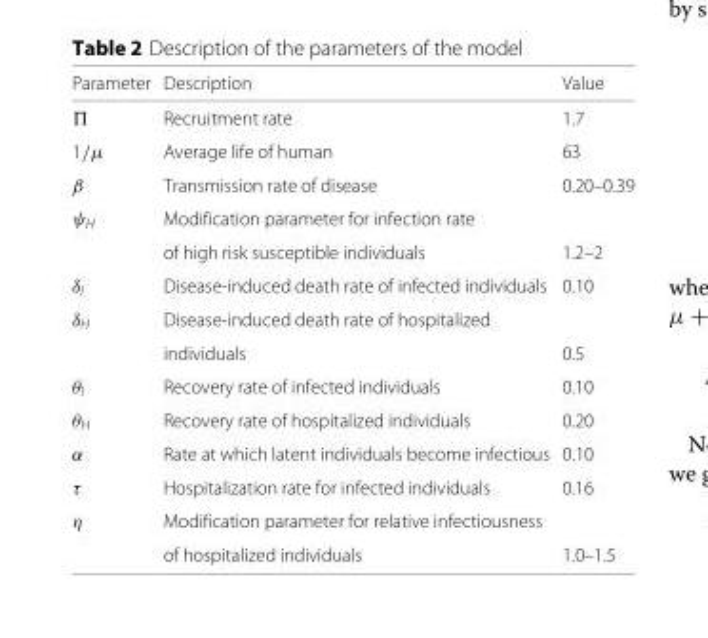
<table><thead><tr><td>Parameter</td><td>Description</td><td>Value</td></tr></thead><tbody><tr><td>Π</td><td>Recruitment rate</td><td>1.7</td></tr><tr><td>1/μ</td><td>Average life of human</td><td>63</td></tr><tr><td>β</td><td>Transmission rate of disease</td><td>0.20–0.39</td></tr><tr><td rowspan="2">ψ<sub>H</sub></td><td colspan="2">Modification parameter for infection rate</td></tr><tr><td>of high risk susceptible individuals</td><td>1.2–2</td></tr><tr><td>δ<sub>I</sub></td><td>Disease-induced death rate of infected individuals</td><td>0.10</td></tr><tr><td rowspan="2">δ<sub>H</sub></td><td colspan="2">Disease-induced death rate of hospitalized</td></tr><tr><td>individuals</td><td>0.5</td></tr><tr><td>θ<sub>I</sub></td><td>Recovery rate of infected individuals</td><td>0.10</td></tr><tr><td>θ<sub>H</sub></td><td>Recovery rate of hospitalized individuals</td><td>0.20</td></tr><tr><td>α</td><td>Rate at which latent individuals become infectious</td><td>0.10</td></tr><tr><td>τ</td><td>Hospitalization rate for infected individuals</td><td>0.16</td></tr><tr><td rowspan="2">η</td><td>Modification parameter for relative infectiousness</td><td></td></tr><tr><td>of hospitalized individuals</td><td>1.0–1.5</td></tr></tbody></table>